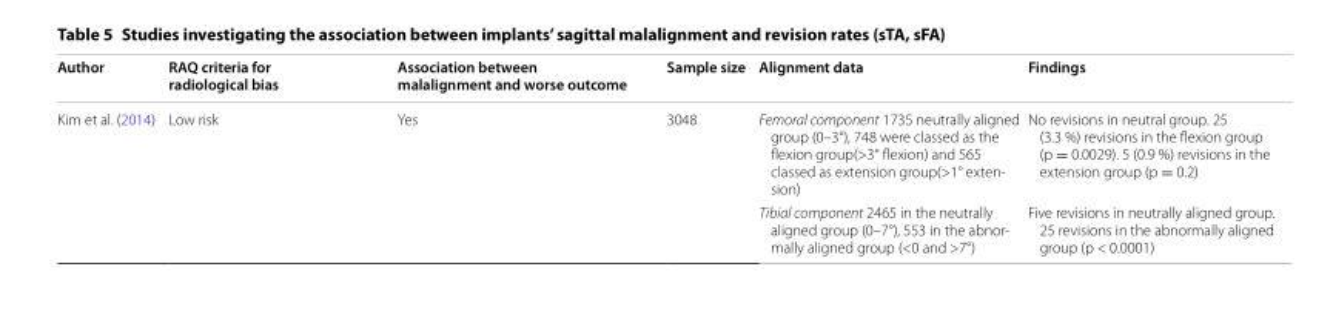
<table><thead><tr><td>Author</td><td>RAQ criteria for radiological bias</td><td>Association between malalignment and worse outcome</td><td>Sample size</td><td>Alignment data</td><td>Findings</td></tr></thead><tbody><tr><td rowspan="2">Kim et al. (2014)</td><td rowspan="2">Low risk</td><td rowspan="2">Yes</td><td rowspan="2">3048</td><td>Femoral component 1735 neutrally aligned group (0–3°), 748 were classed as the flexion group(&gt;3° flexion) and 565 classed as extension group(&gt;1° exten- sion)</td><td>No revisions in neutral group. 25 (3.3 %) revisions in the flexion group (p = 0.0029). 5 (0.9 %) revisions in the extension group (p = 0.2)</td></tr><tr><td>Tibial component 2465 in the neutrally aligned group (0–7°), 553 in the abnor- mally aligned group (&lt;0 and &gt;7°)</td><td>Five revisions in neutrally aligned group. 25 revisions in the abnormally aligned group (p &lt; 0.0001)</td></tr></tbody></table>